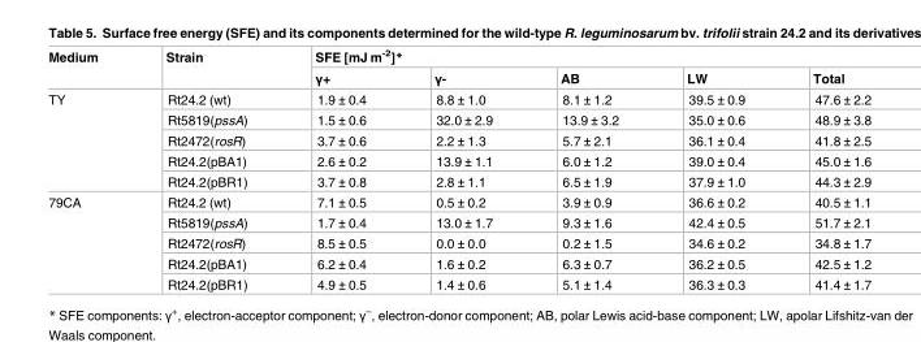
<table><thead><tr><td rowspan="2">Medium</td><td rowspan="2">Strain</td><td colspan="5">SFE [mJ m<sup>-2</sup>]*</td></tr><tr><td>γ+</td><td>γ-</td><td>AB</td><td>LW</td><td>Total</td></tr></thead><tbody><tr><td rowspan="5">TY</td><td>Rt24.2 (wt)</td><td>1.9 ± 0.4</td><td>8.8 ± 1.0</td><td>8.1 ± 1.2</td><td>39.5 ± 0.9</td><td>47.6 ± 2.2</td></tr><tr><td>Rt5819(pssA)</td><td>1.5 ± 0.6</td><td>32.0 ± 2.9</td><td>13.9 ± 3.2</td><td>35.0 ± 0.6</td><td>48.9 ± 3.8</td></tr><tr><td>Rt2472(rosR)</td><td>3.7 ± 0.6</td><td>2.2 ± 1.3</td><td>5.7 ± 2.1</td><td>36.1 ± 0.4</td><td>41.8 ± 2.5</td></tr><tr><td>Rt24.2(pBA1)</td><td>2.6 ± 0.2</td><td>13.9 ± 1.1</td><td>6.0 ± 1.2</td><td>39.0 ± 0.4</td><td>45.0 ± 1.6</td></tr><tr><td>Rt24.2(pBR1)</td><td>3.7 ± 0.8</td><td>2.8 ± 1.1</td><td>6.5 ± 1.9</td><td>37.9 ± 1.0</td><td>44.3 ± 2.9</td></tr><tr><td rowspan="5">79CA</td><td>Rt24.2 (wt)</td><td>7.1 ± 0.5</td><td>0.5 ± 0.2</td><td>3.9 ± 0.9</td><td>36.6 ± 0.2</td><td>40.5 ± 1.1</td></tr><tr><td>Rt5819(pssA)</td><td>1.7 ± 0.4</td><td>13.0 ± 1.7</td><td>9.3 ± 1.6</td><td>42.4 ± 0.5</td><td>51.7 ± 2.1</td></tr><tr><td>Rt2472(rosR)</td><td>8.5 ± 0.5</td><td>0.0 ± 0.0</td><td>0.2 ± 1.5</td><td>34.6 ± 0.2</td><td>34.8 ± 1.7</td></tr><tr><td>Rt24.2(pBA1)</td><td>6.2 ± 0.4</td><td>1.6 ± 0.2</td><td>6.3 ± 0.7</td><td>36.2 ± 0.5</td><td>42.5 ± 1.2</td></tr><tr><td>Rt24.2(pBR1)</td><td>4.9 ± 0.5</td><td>1.4 ± 0.6</td><td>5.1 ± 1.4</td><td>36.3 ± 0.3</td><td>41.4 ± 1.7</td></tr></tbody></table>